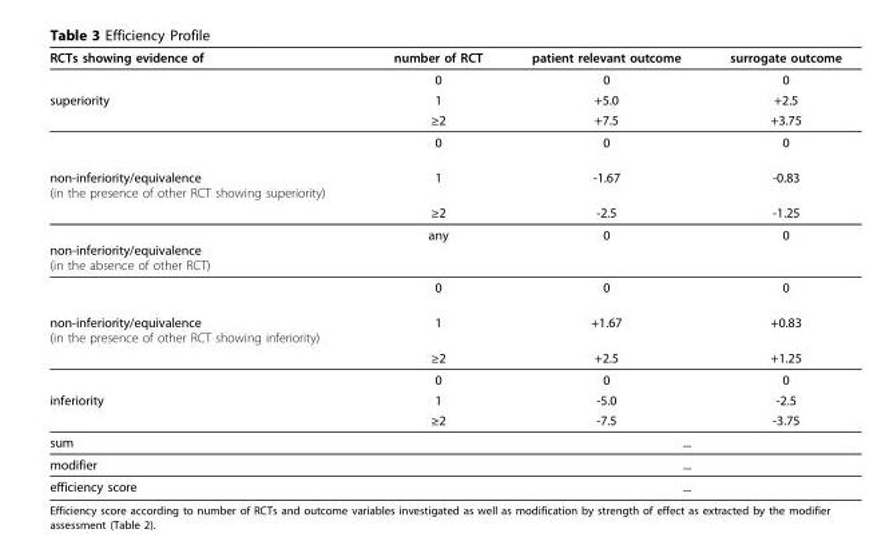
<table><thead><tr><td>RCTs showing evidence of</td><td>number of RCT</td><td>patient relevant outcome</td><td>surrogate outcome</td></tr></thead><tbody><tr><td></td><td>0</td><td>0</td><td>0</td></tr><tr><td rowspan="3">superiority</td><td>1</td><td>+5.0</td><td>+2.5</td></tr><tr><td>≥2</td><td>+7.5</td><td>+3.75</td></tr><tr><td>0</td><td>0</td><td>0</td></tr><tr><td rowspan="2">non-inferiority/equivalence (in the presence of other RCT showing superiority)</td><td>1</td><td>-1.67</td><td>-0.83</td></tr><tr><td>≥2</td><td>-2.5</td><td>-1.25</td></tr><tr><td rowspan="2">non-inferiority/equivalence (in the absence of other RCT)</td><td>any</td><td>0</td><td>0</td></tr><tr><td>0</td><td>0</td><td>0</td></tr><tr><td rowspan="3">non-inferiority/equivalence (in the presence of other RCT showing inferiority)</td><td>1</td><td>+1.67</td><td>+0.83</td></tr><tr><td>≥2</td><td>+2.5</td><td>+1.25</td></tr><tr><td>0</td><td>0</td><td>0</td></tr><tr><td rowspan="2">inferiority</td><td>1</td><td>-5.0</td><td>-2.5</td></tr><tr><td>≥2</td><td>-7.5</td><td>-3.75</td></tr><tr><td>sum</td><td></td><td colspan="2">...</td></tr><tr><td>modifier</td><td></td><td colspan="2">...</td></tr><tr><td>efficiency score</td><td></td><td colspan="2">...</td></tr></tbody></table>